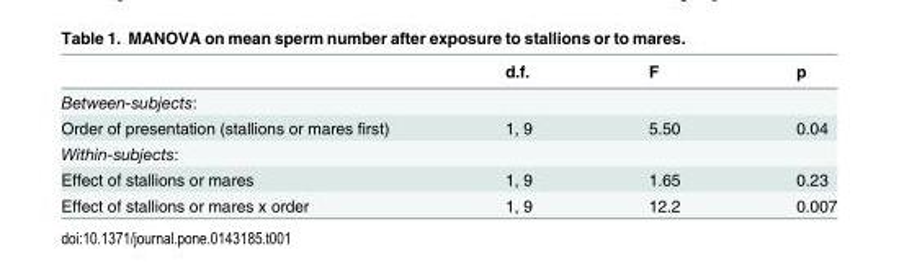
<table><thead><tr><td></td><td>d.f.</td><td>F</td><td>p</td></tr></thead><tbody><tr><td colspan="4">Between-subjects:</td></tr><tr><td>Order of presentation (stallions or mares first)</td><td>1, 9</td><td>5.50</td><td>0.04</td></tr><tr><td colspan="4">Within-subjects:</td></tr><tr><td>Effect of stallions or mares</td><td>1, 9</td><td>1.65</td><td>0.23</td></tr><tr><td>Effect of stallions or mares x order</td><td>1, 9</td><td>12.2</td><td>0.007</td></tr></tbody></table>